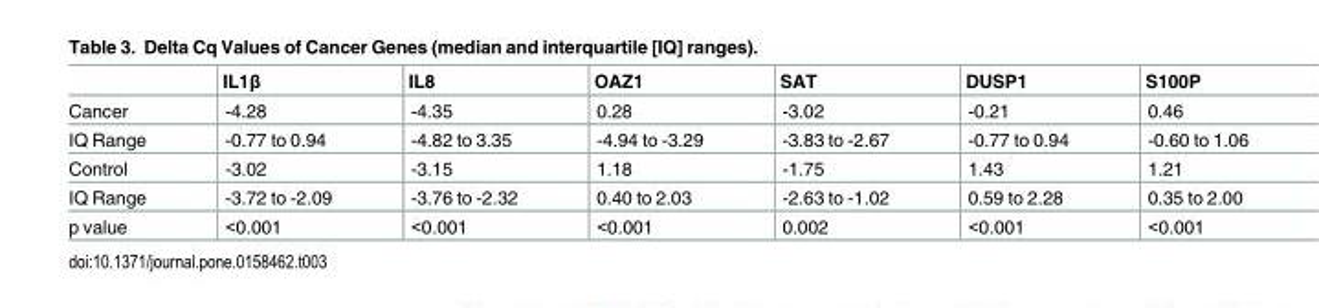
<table><thead><tr><td></td><td>IL1β</td><td>IL8</td><td>OAZ1</td><td>SAT</td><td>DUSP1</td><td>S100P</td></tr></thead><tbody><tr><td>Cancer</td><td>-4.28</td><td>-4.35</td><td>0.28</td><td>-3.02</td><td>-0.21</td><td>0.46</td></tr><tr><td>IQ Range</td><td>-0.77 to 0.94</td><td>-4.82 to 3.35</td><td>-4.94 to -3.29</td><td>-3.83 to -2.67</td><td>-0.77 to 0.94</td><td>-0.60 to 1.06</td></tr><tr><td>Control</td><td>-3.02</td><td>-3.15</td><td>1.18</td><td>-1.75</td><td>1.43</td><td>1.21</td></tr><tr><td>IQ Range</td><td>-3.72 to -2.09</td><td>-3.76 to -2.32</td><td>0.40 to 2.03</td><td>-2.63 to -1.02</td><td>0.59 to 2.28</td><td>0.35 to 2.00</td></tr><tr><td>p value</td><td>&lt;0.001</td><td>&lt;0.001</td><td>&lt;0.001</td><td>0.002</td><td>&lt;0.001</td><td>&lt;0.001</td></tr></tbody></table>